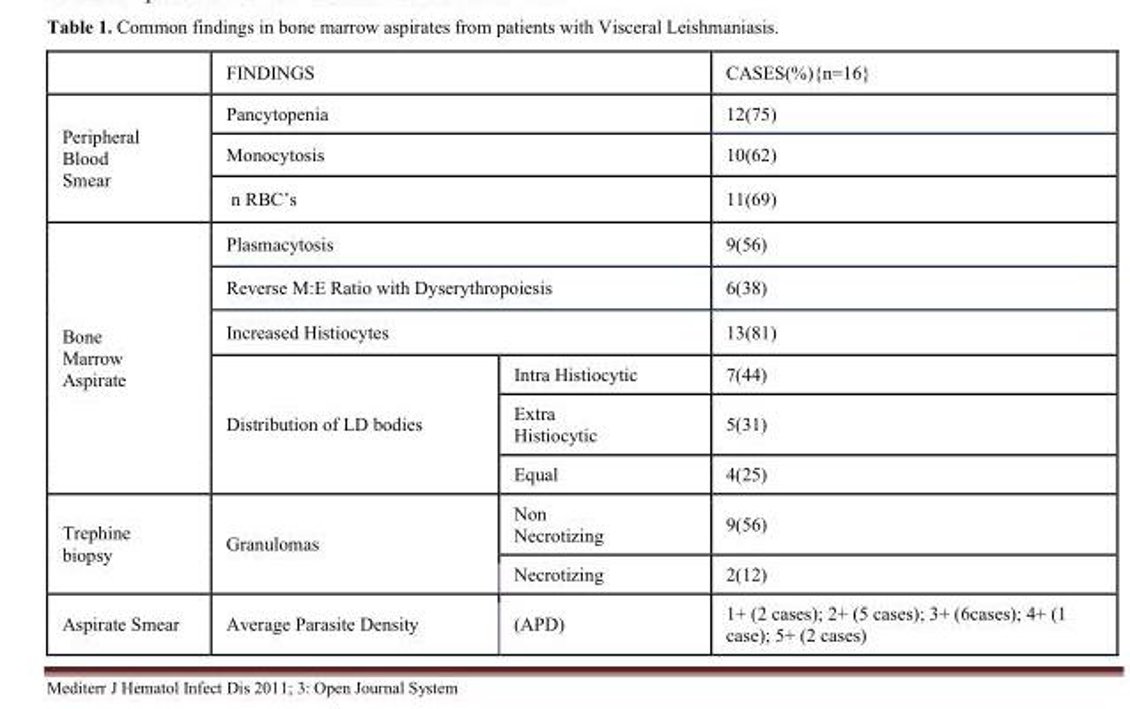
<table><thead><tr><td></td><td colspan="2">FINDINGS</td><td>CASES(%){n=16}</td></tr></thead><tbody><tr><td rowspan="3">Peripheral Blood Smear</td><td colspan="2">Pancytopenia</td><td>12(75)</td></tr><tr><td colspan="2">Monocytosis</td><td>10(62)</td></tr><tr><td colspan="2">n RBC’s</td><td>11(69)</td></tr><tr><td rowspan="6">Bone Marrow Aspirate</td><td colspan="2">Plasmacytosis</td><td>9(56)</td></tr><tr><td colspan="2">Reverse M:E Ratio with Dyserythropoiesis</td><td>6(38)</td></tr><tr><td colspan="2">Increased Histiocytes</td><td>13(81)</td></tr><tr><td rowspan="3">Distribution of LD bodies</td><td>Intra Histiocytic</td><td>7(44)</td></tr><tr><td>Extra Histiocytic</td><td>5(31)</td></tr><tr><td>Equal</td><td>4(25)</td></tr><tr><td rowspan="2">Trephine biopsy</td><td rowspan="2">Granulomas</td><td>Non Necrotizing</td><td>9(56)</td></tr><tr><td>Necrotizing</td><td>2(12)</td></tr><tr><td>Aspirate Smear</td><td>Average Parasite Density</td><td>(APD)</td><td>1+ (2 cases); 2+ (5 cases); 3+ (6cases); 4+ (1 case); 5+ (2 cases)</td></tr></tbody></table>